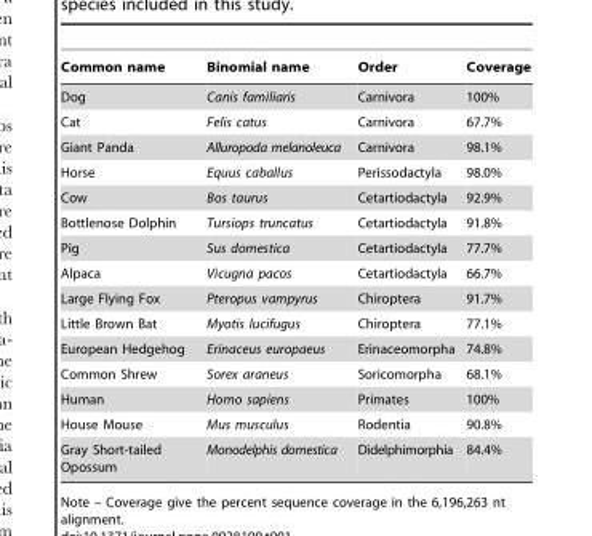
<table><thead><tr><td>Common name</td><td>Binomial name</td><td>Order</td><td>Coverage</td></tr></thead><tbody><tr><td>Dog</td><td>Canis familiaris</td><td>Carnivora</td><td>100%</td></tr><tr><td>Cat</td><td>Felis catus</td><td>Carnivora</td><td>67.7%</td></tr><tr><td>Giant Panda</td><td>Alluropoda melanoleuca</td><td>Carnivora</td><td>98.1%</td></tr><tr><td>Horse</td><td>Equus caballus</td><td>Perissodactyla</td><td>98.0%</td></tr><tr><td>Cow</td><td>Bos taurus</td><td>Cetartiodactyla</td><td>92.9%</td></tr><tr><td>Bottlenose Dolphin</td><td>Tursiops truncatus</td><td>Cetartiodactyla</td><td>91.8%</td></tr><tr><td>Pig</td><td>Sus domestica</td><td>Cetartiodactyla</td><td>77.7%</td></tr><tr><td>Alpaca</td><td>Vicugna pacos</td><td>Cetartiodactyla</td><td>66.7%</td></tr><tr><td>Large Flying Fox</td><td>Pteropus vampyrus</td><td>Chiroptera</td><td>91.7%</td></tr><tr><td>Little Brown Bat</td><td>Myotis lucifugus</td><td>Chiroptera</td><td>77.1%</td></tr><tr><td>European Hedgehog</td><td>Erinaceus europaeus</td><td>Erinaceomorpha</td><td>74.8%</td></tr><tr><td>Common Shrew</td><td>Sorex araneus</td><td>Soricomorpha</td><td>68.1%</td></tr><tr><td>Human</td><td>Homo sapiens</td><td>Primates</td><td>100%</td></tr><tr><td>House Mouse</td><td>Mus musculus</td><td>Rodentia</td><td>90.8%</td></tr><tr><td>Gray Short-tailed Opossum</td><td>Monodelphis domestica</td><td>Didelphimorphia</td><td>84.4%</td></tr></tbody></table>